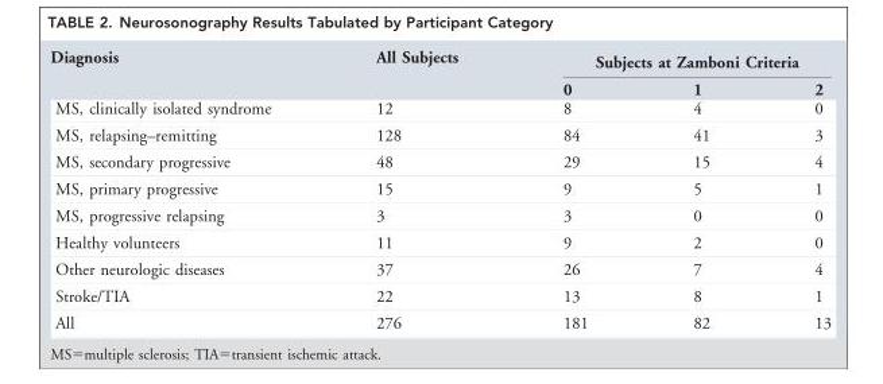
<table><thead><tr><td rowspan="2">Diagnosis</td><td rowspan="2">All Subjects</td><td colspan="3">Subjects at Zamboni Criteria</td></tr><tr><td>0</td><td>1</td><td>2</td></tr></thead><tbody><tr><td>MS, clinically isolated syndrome</td><td>12</td><td>8</td><td>4</td><td>0</td></tr><tr><td>MS, relapsing–remitting</td><td>128</td><td>84</td><td>41</td><td>3</td></tr><tr><td>MS, secondary progressive</td><td>48</td><td>29</td><td>15</td><td>4</td></tr><tr><td>MS, primary progressive</td><td>15</td><td>9</td><td>5</td><td>1</td></tr><tr><td>MS, progressive relapsing</td><td>3</td><td>3</td><td>0</td><td>0</td></tr><tr><td>Healthy volunteers</td><td>11</td><td>9</td><td>2</td><td>0</td></tr><tr><td>Other neurologic diseases</td><td>37</td><td>26</td><td>7</td><td>4</td></tr><tr><td>Stroke/TIA</td><td>22</td><td>13</td><td>8</td><td>1</td></tr><tr><td>All</td><td>276</td><td>181</td><td>82</td><td>13</td></tr></tbody></table>